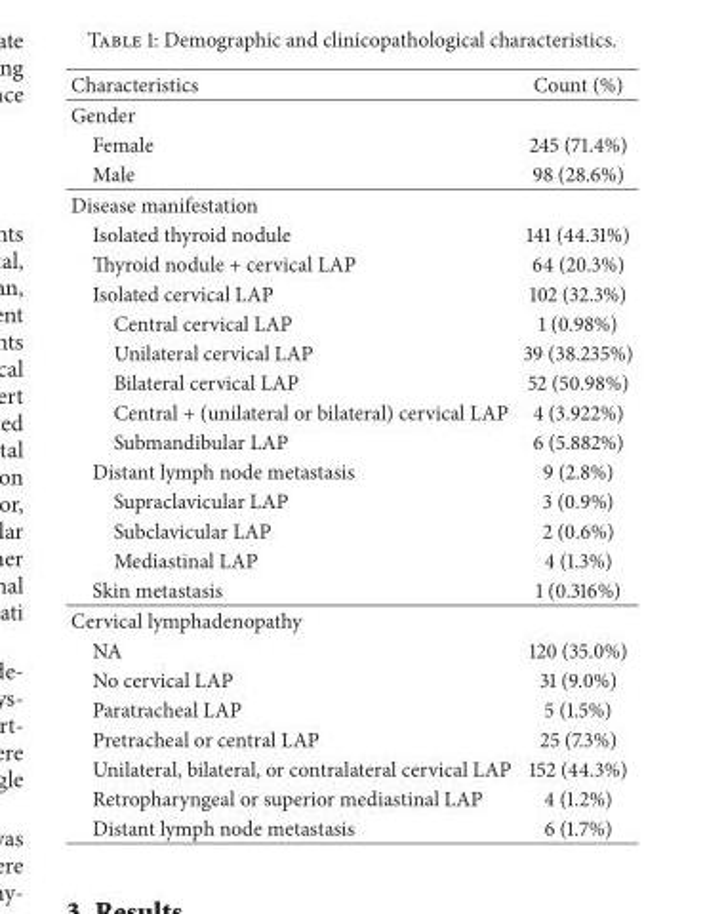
<table><thead><tr><td>Characteristics</td><td>Count (%)</td></tr></thead><tbody><tr><td colspan="2">Gender</td></tr><tr><td>Female</td><td>245 (71.4%)</td></tr><tr><td>Male</td><td>98 (28.6%)</td></tr><tr><td colspan="2">Disease manifestation</td></tr><tr><td>Isolated thyroid nodule</td><td>141 (44.31%)</td></tr><tr><td>Thyroid nodule + cervical LAP</td><td>64 (20.3%)</td></tr><tr><td>Isolated cervical LAP</td><td>102 (32.3%)</td></tr><tr><td>Central cervical LAP</td><td>1 (0.98%)</td></tr><tr><td>Unilateral cervical LAP</td><td>39 (38.235%)</td></tr><tr><td>Bilateral cervical LAP</td><td>52 (50.98%)</td></tr><tr><td>Central + (unilateral or bilateral) cervical LAP</td><td>4 (3.922%)</td></tr><tr><td>Submandibular LAP</td><td>6 (5.882%)</td></tr><tr><td>Distant lymph node metastasis</td><td>9 (2.8%)</td></tr><tr><td>Supraclavicular LAP</td><td>3 (0.9%)</td></tr><tr><td>Subclavicular LAP</td><td>2 (0.6%)</td></tr><tr><td>Mediastinal LAP</td><td>4 (1.3%)</td></tr><tr><td>Skin metastasis</td><td>1 (0.316%)</td></tr><tr><td colspan="2">Cervical lymphadenopathy</td></tr><tr><td>NA</td><td>120 (35.0%)</td></tr><tr><td>No cervical LAP</td><td>31 (9.0%)</td></tr><tr><td>Paratracheal LAP</td><td>5 (1.5%)</td></tr><tr><td>Pretracheal or central LAP</td><td>25 (7.3%)</td></tr><tr><td>Unilateral, bilateral, or contralateral cervical LAP</td><td>152 (44.3%)</td></tr><tr><td>Retropharyngeal or superior mediastinal LAP</td><td>4 (1.2%)</td></tr><tr><td>Distant lymph node metastasis</td><td>6 (1.7%)</td></tr></tbody></table>